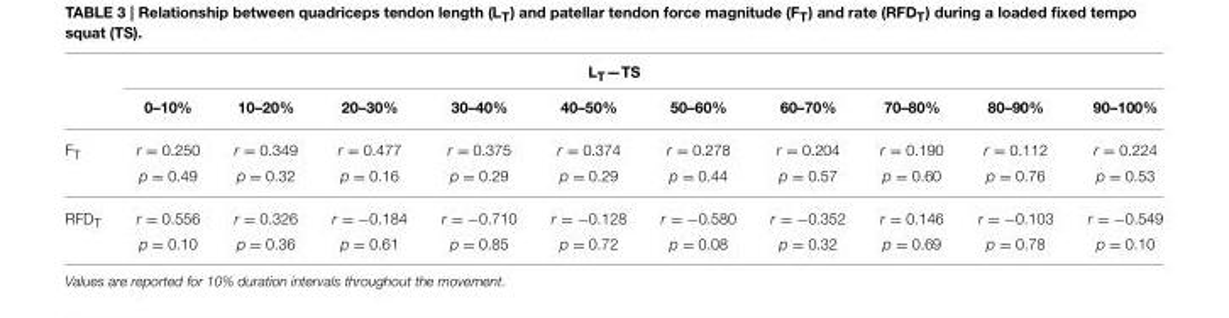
<table><thead><tr><td colspan="11">L<sub>T</sub>—TS</td></tr><tr><td></td><td>0–10%</td><td>10–20%</td><td>20–30%</td><td>30–40%</td><td>40–50%</td><td>50–60%</td><td>60–70%</td><td>70–80%</td><td>80–90%</td><td>90–100%</td></tr></thead><tbody><tr><td rowspan="2">F<sub>T</sub></td><td>r = 0.250</td><td>r = 0.349</td><td>r = 0.477</td><td>r = 0.375</td><td>r = 0.374</td><td>r = 0.278</td><td>r = 0.204</td><td>r = 0.190</td><td>r = 0.112</td><td>r = 0.224</td></tr><tr><td>p = 0.49</td><td>p = 0.32</td><td>p = 0.16</td><td>p = 0.29</td><td>p = 0.29</td><td>p = 0.44</td><td>p = 0.57</td><td>p = 0.60</td><td>p = 0.76</td><td>p = 0.53</td></tr><tr><td rowspan="2">RFD<sub>T</sub></td><td>r = 0.556</td><td>r = 0.326</td><td>r = −0.184</td><td>r = −0.710</td><td>r = −0.128</td><td>r = −0.580</td><td>r = −0.352</td><td>r = 0.146</td><td>r = −0.103</td><td>r = −0.549</td></tr><tr><td>p = 0.10</td><td>p = 0.36</td><td>p = 0.61</td><td>p = 0.85</td><td>p = 0.72</td><td>p = 0.08</td><td>p = 0.32</td><td>p = 0.69</td><td>p = 0.78</td><td>p = 0.10</td></tr></tbody></table>